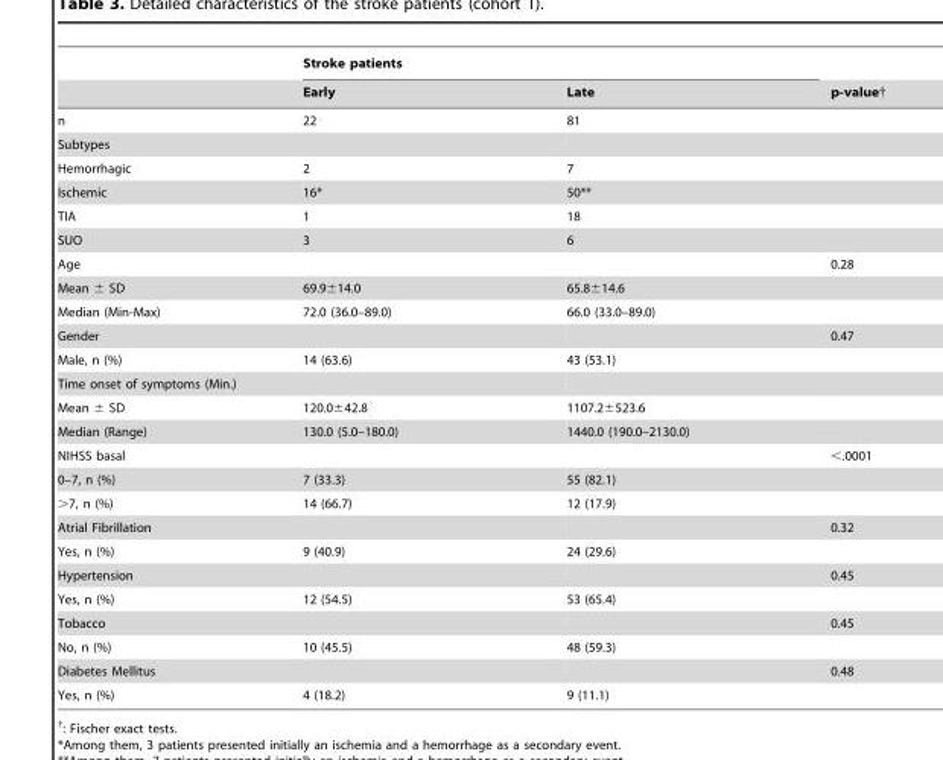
<table><thead><tr><td rowspan="2"></td><td colspan="2">Stroke patients</td><td rowspan="2">p-value†</td></tr><tr><td>Early</td><td>Late</td></tr></thead><tbody><tr><td>n</td><td>22</td><td>81</td><td></td></tr><tr><td colspan="4">Subtypes</td></tr><tr><td>Hemorrhagic</td><td>2</td><td>7</td><td></td></tr><tr><td>Ischemic</td><td>16*</td><td>50**</td><td></td></tr><tr><td>TIA</td><td>1</td><td>18</td><td></td></tr><tr><td>SUO</td><td>3</td><td>6</td><td></td></tr><tr><td>Age</td><td></td><td></td><td>0.28</td></tr><tr><td>Mean ± SD</td><td>69.9±14.0</td><td>65.8±14.6</td><td></td></tr><tr><td>Median (Min-Max)</td><td>72.0 (36.0–89.0)</td><td>66.0 (33.0–89.0)</td><td></td></tr><tr><td>Gender</td><td></td><td></td><td>0.47</td></tr><tr><td>Male, n (%)</td><td>14 (63.6)</td><td>43 (53.1)</td><td></td></tr><tr><td colspan="4">Time onset of symptoms (Min.)</td></tr><tr><td>Mean ± SD</td><td>120.0±42.8</td><td>1107.2±523.6</td><td></td></tr><tr><td>Median (Range)</td><td>130.0 (5.0–180.0)</td><td>1440.0 (190.0–2130.0)</td><td></td></tr><tr><td>NIHSS basal</td><td></td><td></td><td>&lt;.0001</td></tr><tr><td>0–7, n (%)</td><td>7 (33.3)</td><td>55 (82.1)</td><td></td></tr><tr><td>&gt;7, n (%)</td><td>14 (66.7)</td><td>12 (17.9)</td><td></td></tr><tr><td>Atrial Fibrillation</td><td></td><td></td><td>0.32</td></tr><tr><td>Yes, n (%)</td><td>9 (40.9)</td><td>24 (29.6)</td><td></td></tr><tr><td>Hypertension</td><td></td><td></td><td>0.45</td></tr><tr><td>Yes, n (%)</td><td>12 (54.5)</td><td>53 (65.4)</td><td></td></tr><tr><td>Tobacco</td><td></td><td></td><td>0.45</td></tr><tr><td>No, n (%)</td><td>10 (45.5)</td><td>48 (59.3)</td><td></td></tr><tr><td>Diabetes Mellitus</td><td></td><td></td><td>0.48</td></tr><tr><td>Yes, n (%)</td><td>4 (18.2)</td><td>9 (11.1)</td><td></td></tr></tbody></table>